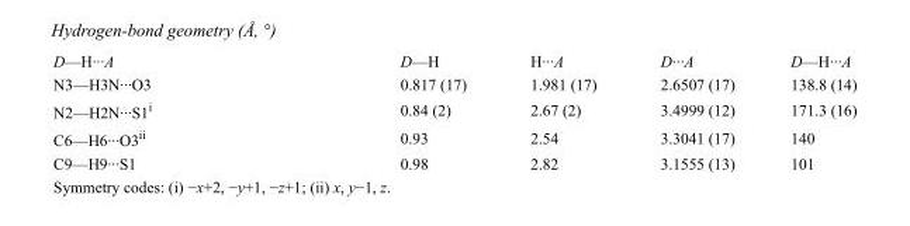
<table><tbody><tr><td>D—H···A</td><td>D—H</td><td>H···A</td><td>D···A</td><td>D—H···A</td></tr><tr><td>N3—H3N···O3</td><td>0.817 (17)</td><td>1.981 (17)</td><td>2.6507 (17)</td><td>138.8 (14)</td></tr><tr><td>N2—H2N···S1<sup>i</sup></td><td>0.84 (2)</td><td>2.67 (2)</td><td>3.4999 (12)</td><td>171.3 (16)</td></tr><tr><td>C6—H6···O3<sup>ii</sup></td><td>0.93</td><td>2.54</td><td>3.3041 (17)</td><td>140</td></tr><tr><td>C9—H9···S1</td><td>0.98</td><td>2.82</td><td>3.1555 (13)</td><td>101</td></tr></tbody></table>